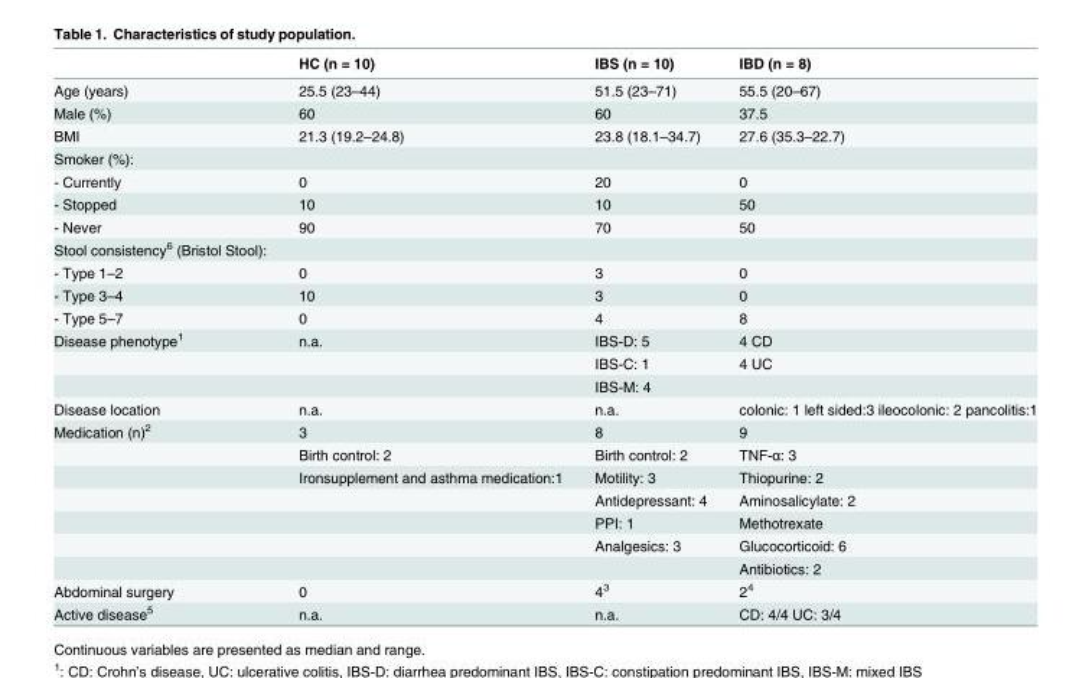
<table><thead><tr><td></td><td>HC (n = 10)</td><td>IBS (n = 10)</td><td>IBD (n = 8)</td></tr></thead><tbody><tr><td>Age (years)</td><td>25.5 (23–44)</td><td>51.5 (23–71)</td><td>55.5 (20–67)</td></tr><tr><td>Male (%)</td><td>60</td><td>60</td><td>37.5</td></tr><tr><td>BMI</td><td>21.3 (19.2–24.8)</td><td>23.8 (18.1–34.7)</td><td>27.6 (35.3–22.7)</td></tr><tr><td colspan="4">Smoker (%):</td></tr><tr><td>- Currently</td><td>0</td><td>20</td><td>0</td></tr><tr><td>- Stopped</td><td>10</td><td>10</td><td>50</td></tr><tr><td>- Never</td><td>90</td><td>70</td><td>50</td></tr><tr><td colspan="4">Stool consistency<sup>6</sup> (Bristol Stool):</td></tr><tr><td>- Type 1–2</td><td>0</td><td>3</td><td>0</td></tr><tr><td>- Type 3–4</td><td>10</td><td>3</td><td>0</td></tr><tr><td>- Type 5–7</td><td>0</td><td>4</td><td>8</td></tr><tr><td rowspan="3">Disease phenotype<sup>1</sup></td><td>n.a.</td><td>IBS-D: 5</td><td>4 CD</td></tr><tr><td></td><td>IBS-C: 1</td><td>4 UC</td></tr><tr><td></td><td>IBS-M: 4</td><td></td></tr><tr><td>Disease location</td><td>n.a.</td><td>n.a.</td><td>colonic: 1 left sided:3 ileocolonic: 2 pancolitis:1</td></tr><tr><td rowspan="7">Medication (n)<sup>2</sup></td><td>3</td><td>8</td><td>9</td></tr><tr><td>Birth control: 2</td><td>Birth control: 2</td><td>TNF-α: 3</td></tr><tr><td>Ironsupplement and asthma medication:1</td><td>Motility: 3</td><td>Thiopurine: 2</td></tr><tr><td></td><td>Antidepressant: 4</td><td>Aminosalicylate: 2</td></tr><tr><td></td><td>PPI: 1</td><td>Methotrexate</td></tr><tr><td></td><td>Analgesics: 3</td><td>Glucocorticoid: 6</td></tr><tr><td></td><td></td><td>Antibiotics: 2</td></tr><tr><td>Abdominal surgery</td><td>0</td><td>4<sup>3</sup></td><td>2<sup>4</sup></td></tr><tr><td>Active disease<sup>5</sup></td><td>n.a.</td><td>n.a.</td><td>CD: 4/4 UC: 3/4</td></tr></tbody></table>